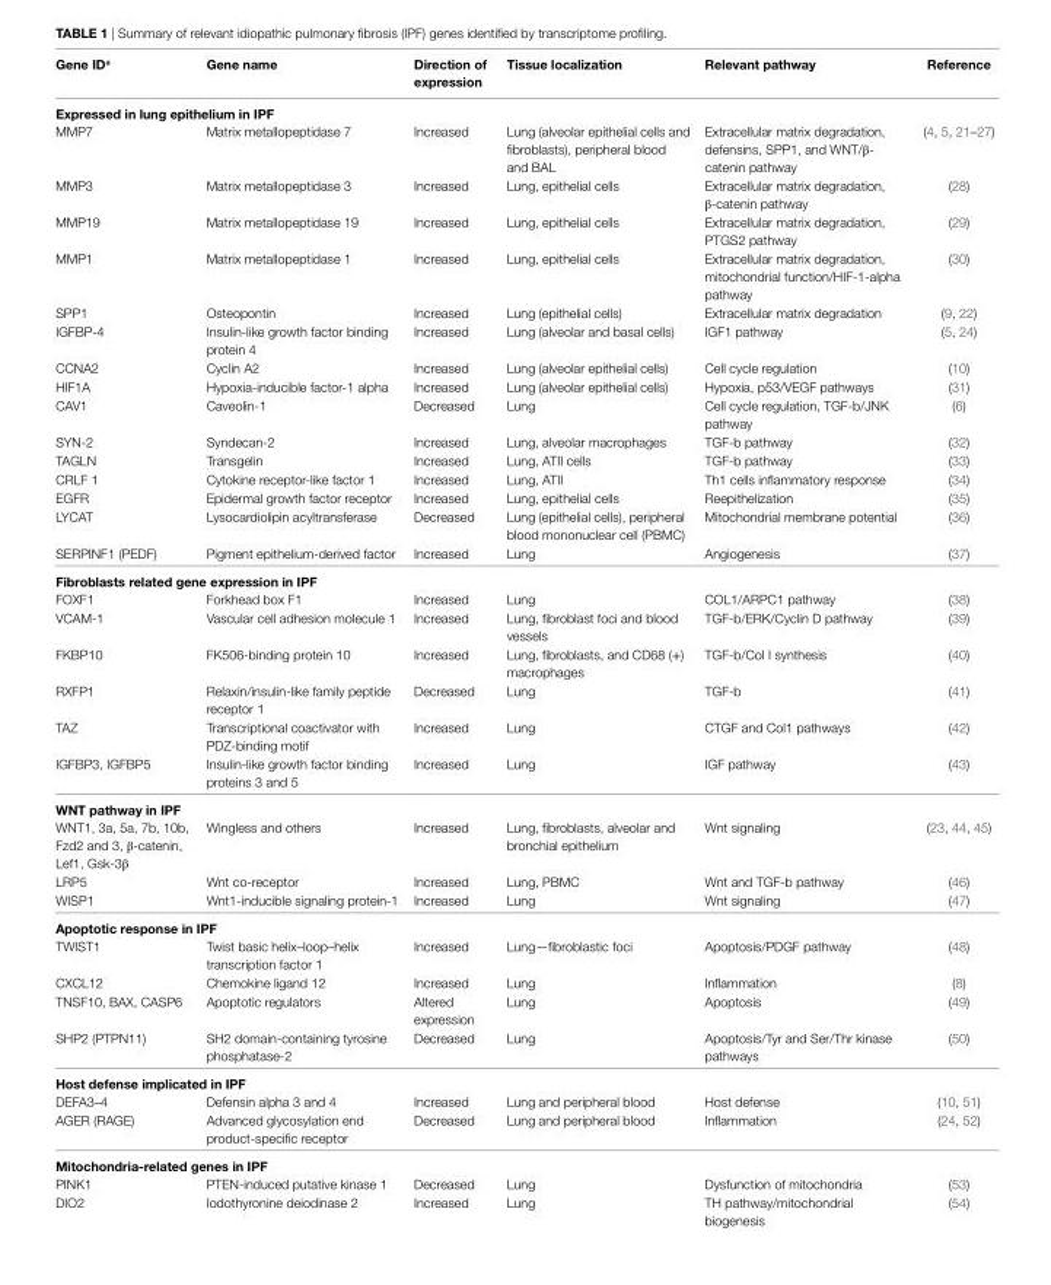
<table><thead><tr><td>gene iD<sup>a</sup></td><td>gene name</td><td>Direction of expression</td><td>Tissue localization</td><td>Relevant pathway</td><td>Reference</td></tr></thead><tbody><tr><td colspan="6">expressed in lung epithelium in iPF</td></tr><tr><td>MMP7</td><td>Matrix metallopeptidase 7</td><td>Increased</td><td>Lung (alveolar epithelial cells and fibroblasts), peripheral blood and BAL</td><td>Extracellular matrix degradation, defensins, SPP1, and WNT/β- catenin pathway</td><td>(4, 5, 21–27)</td></tr><tr><td>MMP3</td><td>Matrix metallopeptidase 3</td><td>Increased</td><td>Lung, epithelial cells</td><td>Extracellular matrix degradation, β-catenin pathway</td><td>(28)</td></tr><tr><td>MMP19</td><td>Matrix metallopeptidase 19</td><td>Increased</td><td>Lung, epithelial cells</td><td>Extracellular matrix degradation, PTGS2 pathway</td><td>(29)</td></tr><tr><td>MMP1</td><td>Matrix metallopeptidase 1</td><td>Increased</td><td>Lung, epithelial cells</td><td>Extracellular matrix degradation, mitochondrial function/HIF-1-alpha pathway</td><td>(30)</td></tr><tr><td>SPP1</td><td>Osteopontin</td><td>Increased</td><td>Lung (epithelial cells)</td><td>Extracellular matrix degradation</td><td>(9, 22)</td></tr><tr><td>IGFBP-4</td><td>Insulin-like growth factor binding protein 4</td><td>Increased</td><td>Lung (alveolar and basal cells)</td><td>IGF1 pathway</td><td>(5, 24)</td></tr><tr><td>CCNA2</td><td>Cyclin A2</td><td>Increased</td><td>Lung (alveolar epithelial cells)</td><td>Cell cycle regulation</td><td>(10)</td></tr><tr><td>HIF1A</td><td>Hypoxia-inducible factor-1 alpha</td><td>Increased</td><td>Lung (alveolar epithelial cells)</td><td>Hypoxia, p53/VEGF pathways</td><td>(31)</td></tr><tr><td>CAV1</td><td>Caveolin-1</td><td>Decreased</td><td>Lung</td><td>Cell cycle regulation, TGF-b/JNK pathway</td><td>(6)</td></tr><tr><td>SYN-2</td><td>Syndecan-2</td><td>Increased</td><td>Lung, alveolar macrophages</td><td>TGF-b pathway</td><td>(32)</td></tr><tr><td>TAGLN</td><td>Transgelin</td><td>Increased</td><td>Lung, ATII cells</td><td>TGF-b pathway</td><td>(33)</td></tr><tr><td>CRLF 1</td><td>Cytokine receptor-like factor 1</td><td>Increased</td><td>Lung, ATII</td><td>Th1 cells inflammatory response</td><td>(34)</td></tr><tr><td>EGFR</td><td>Epidermal growth factor receptor</td><td>Increased</td><td>Lung, epithelial cells</td><td>Reepithelization</td><td>(35)</td></tr><tr><td>LYCAT</td><td>Lysocardiolipin acyltransferase</td><td>Decreased</td><td>Lung (epithelial cells), peripheral blood mononuclear cell (PBMC)</td><td>Mitochondrial membrane potential</td><td>(36)</td></tr><tr><td>SERPINF1 (PEDF)</td><td>Pigment epithelium-derived factor</td><td>Increased</td><td>Lung</td><td>Angiogenesis</td><td>(37)</td></tr><tr><td colspan="6">Fibroblasts related gene expression in iPF</td></tr><tr><td>FOXF1</td><td>Forkhead box F1</td><td>Increased</td><td>Lung</td><td>COL1/ARPC1 pathway</td><td>(38)</td></tr><tr><td>VCAM-1</td><td>Vascular cell adhesion molecule 1</td><td>Increased</td><td>Lung, fibroblast foci and blood vessels</td><td>TGF-b/ERK/Cyclin D pathway</td><td>(39)</td></tr><tr><td>FKBP10</td><td>FK506-binding protein 10</td><td>Increased</td><td>Lung, fibroblasts, and CD68 (+) macrophages</td><td>TGF-b/Col I synthesis</td><td>(40)</td></tr><tr><td>RXFP1</td><td>Relaxin/insulin-like family peptide receptor 1</td><td>Decreased</td><td>Lung</td><td>TGF-b</td><td>(41)</td></tr><tr><td>TAZ</td><td>Transcriptional coactivator with PDZ-binding motif</td><td>Increased</td><td>Lung</td><td>CTGF and Col1 pathways</td><td>(42)</td></tr><tr><td>IGFBP3, IGFBP5</td><td>Insulin-like growth factor binding proteins 3 and 5</td><td>Increased</td><td>Lung</td><td>IGF pathway</td><td>(43)</td></tr><tr><td colspan="6">wNT pathway in iPF</td></tr><tr><td>WNT1, 3a, 5a, 7b, 10b, Fzd2 and 3, β-catenin, Lef1, Gsk-3β</td><td>Wingless and others</td><td>Increased</td><td>Lung, fibroblasts, alveolar and bronchial epithelium</td><td>Wnt signaling</td><td>(23, 44, 45)</td></tr><tr><td>LRP5</td><td>Wnt co-receptor</td><td>Increased</td><td>Lung, PBMC</td><td>Wnt and TGF-b pathway</td><td>(46)</td></tr><tr><td>WISP1</td><td>Wnt1-inducible signaling protein-1</td><td>Increased</td><td>Lung</td><td>Wnt signaling</td><td>(47)</td></tr><tr><td colspan="6">Apoptotic response in iPF</td></tr><tr><td>TWIST1</td><td>Twist basic helix–loop–helix transcription factor 1</td><td>Increased</td><td>Lung—fibroblastic foci</td><td>Apoptosis/PDGF pathway</td><td>(48)</td></tr><tr><td>CXCL12</td><td>Chemokine ligand 12</td><td>Increased</td><td>Lung</td><td>Inflammation</td><td>(8)</td></tr><tr><td>TNSF10, BAX, CASP6</td><td>Apoptotic regulators</td><td>Altered expression</td><td>Lung</td><td>Apoptosis</td><td>(49)</td></tr><tr><td>SHP2 (PTPN11)</td><td>SH2 domain-containing tyrosine phosphatase-2</td><td>Decreased</td><td>Lung</td><td>Apoptosis/Tyr and Ser/Thr kinase pathways</td><td>(50)</td></tr><tr><td colspan="6">Host defense implicated in iPF</td></tr><tr><td>DEFA3–4</td><td>Defensin alpha 3 and 4</td><td>Increased</td><td>Lung and peripheral blood</td><td>Host defense</td><td>(10, 51)</td></tr><tr><td>AGER (RAGE)</td><td>Advanced glycosylation end product-specific receptor</td><td>Decreased</td><td>Lung and peripheral blood</td><td>Inflammation</td><td>(24, 52)</td></tr><tr><td colspan="6">Mitochondria-related genes in iPF</td></tr><tr><td>PINK1</td><td>PTEN-induced putative kinase 1</td><td>Decreased</td><td>Lung</td><td>Dysfunction of mitochondria</td><td>(53)</td></tr><tr><td>DIO2</td><td>Iodothyronine deiodinase 2</td><td>Increased</td><td>Lung</td><td>TH pathway/mitochondrial biogenesis</td><td>(54)</td></tr></tbody></table>